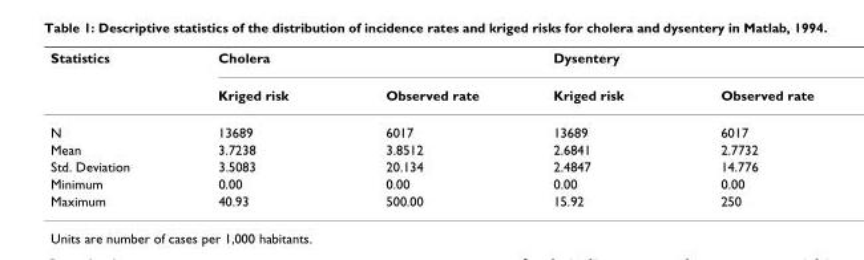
<table><thead><tr><td rowspan="2">Statistics</td><td colspan="2">Cholera</td><td colspan="2">Dysentery</td></tr><tr><td>Kriged risk</td><td>Observed rate</td><td>Kriged risk</td><td>Observed rate</td></tr></thead><tbody><tr><td>N</td><td>13689</td><td>6017</td><td>13689</td><td>6017</td></tr><tr><td>Mean</td><td>3.7238</td><td>3.8512</td><td>2.6841</td><td>2.7732</td></tr><tr><td>Std. Deviation</td><td>3.5083</td><td>20.134</td><td>2.4847</td><td>14.776</td></tr><tr><td>Minimum</td><td>0.00</td><td>0.00</td><td>0.00</td><td>0.00</td></tr><tr><td>Maximum</td><td>40.93</td><td>500.00</td><td>15.92</td><td>250</td></tr></tbody></table>